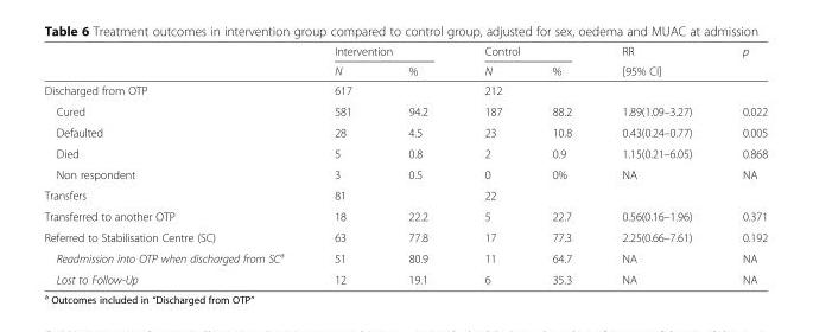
<table><thead><tr><td rowspan="2"></td><td colspan="2">Intervention</td><td colspan="2">Control</td><td rowspan="2">RR [95% CI]</td><td rowspan="2">p</td></tr><tr><td>N</td><td>%</td><td>N</td><td>%</td></tr></thead><tbody><tr><td>Discharged from OTP</td><td>617</td><td></td><td>212</td><td></td><td></td><td></td></tr><tr><td>Cured</td><td>581</td><td>94.2</td><td>187</td><td>88.2</td><td>1.89(1.09–3.27)</td><td>0.022</td></tr><tr><td>Defaulted</td><td>28</td><td>4.5</td><td>23</td><td>10.8</td><td>0.43(0.24–0.77)</td><td>0.005</td></tr><tr><td>Died</td><td>5</td><td>0.8</td><td>2</td><td>0.9</td><td>1.15(0.21–6.05)</td><td>0.868</td></tr><tr><td>Non respondent</td><td>3</td><td>0.5</td><td>0</td><td>0%</td><td>NA</td><td>NA</td></tr><tr><td>Transfers</td><td>81</td><td></td><td>22</td><td></td><td></td><td></td></tr><tr><td>Transferred to another OTP</td><td>18</td><td>22.2</td><td>5</td><td>22.7</td><td>0.56(0.16–1.96)</td><td>0.371</td></tr><tr><td>Referred to Stabilisation Centre (SC)</td><td>63</td><td>77.8</td><td>17</td><td>77.3</td><td>2.25(0.66–7.61)</td><td>0.192</td></tr><tr><td>Readmission into OTP when discharged from SC<sup>a</sup></td><td>51</td><td>80.9</td><td>11</td><td>64.7</td><td>NA</td><td>NA</td></tr><tr><td>Lost to Follow-Up</td><td>12</td><td>19.1</td><td>6</td><td>35.3</td><td>NA</td><td>NA</td></tr></tbody></table>